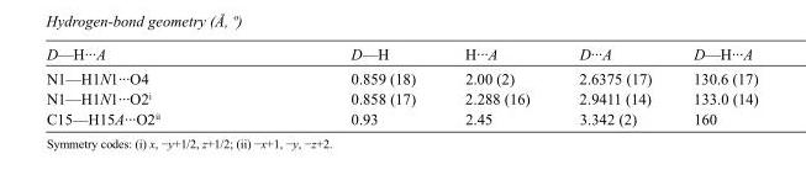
<table><tbody><tr><td>D—H···A</td><td>D—H</td><td>H···A</td><td>D···A</td><td>D—H···A</td></tr><tr><td>N1—H1N1···O4</td><td>0.859 (18)</td><td>2.00 (2)</td><td>2.6375 (17)</td><td>130.6 (17)</td></tr><tr><td>N1—H1N1···O2<sup>i</sup></td><td>0.858 (17)</td><td>2.288 (16)</td><td>2.9411 (14)</td><td>133.0 (14)</td></tr><tr><td>C15—H15A···O2<sup>ii</sup></td><td>0.93</td><td>2.45</td><td>3.342 (2)</td><td>160</td></tr></tbody></table>